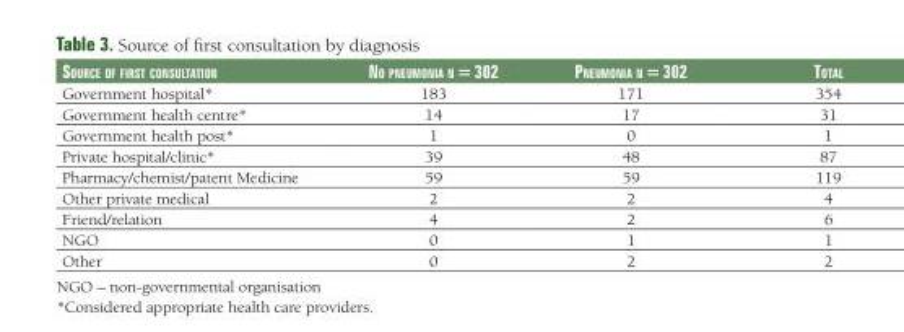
<table><thead><tr><td>sourCe of first Consultation</td><td>no Pneumonia n = 302</td><td>Pneumonia n = 302</td><td>total</td></tr></thead><tbody><tr><td>Government hospital*</td><td>183</td><td>171</td><td>354</td></tr><tr><td>Government health centre*</td><td>14</td><td>17</td><td>31</td></tr><tr><td>Government health post*</td><td>1</td><td>0</td><td>1</td></tr><tr><td>Private hospital/clinic*</td><td>39</td><td>48</td><td>87</td></tr><tr><td>Pharmacy/chemist/patent Medicine</td><td>59</td><td>59</td><td>119</td></tr><tr><td>Other private medical</td><td>2</td><td>2</td><td>4</td></tr><tr><td>Friend/relation</td><td>4</td><td>2</td><td>6</td></tr><tr><td>NGO</td><td>0</td><td>1</td><td>1</td></tr><tr><td>Other</td><td>0</td><td>2</td><td>2</td></tr></tbody></table>